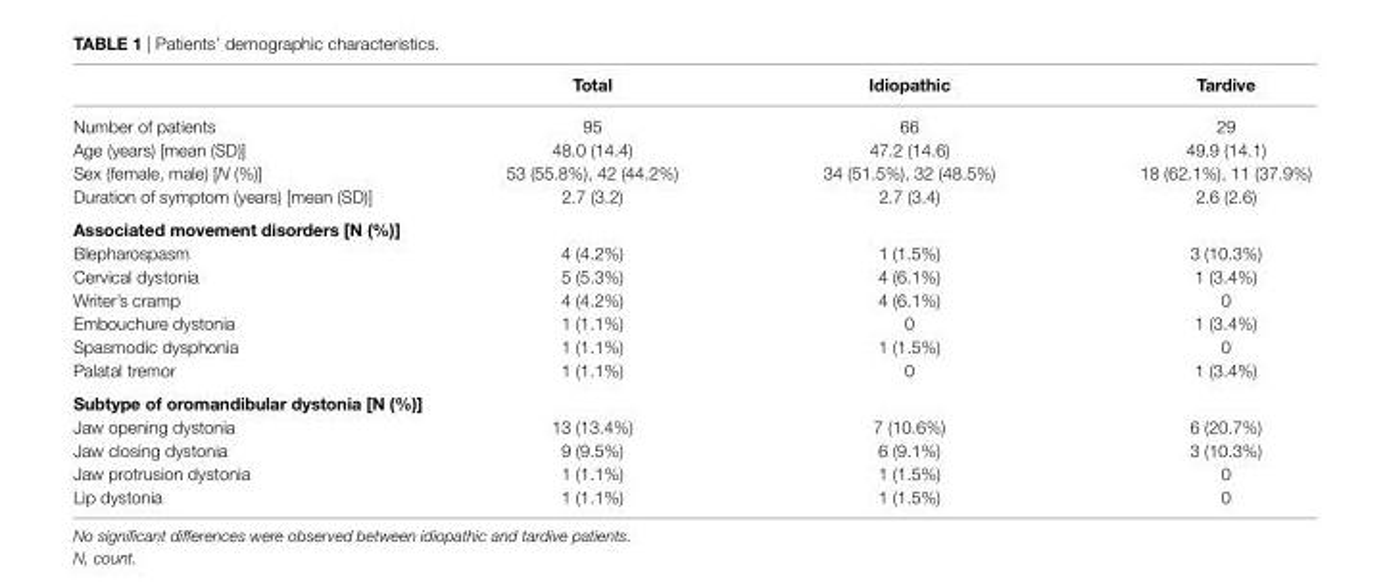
<table><thead><tr><td></td><td>Total</td><td>idiopathic</td><td>Tardive</td></tr></thead><tbody><tr><td>Number of patients</td><td>95</td><td>66</td><td>29</td></tr><tr><td>Age (years) [mean (SD)]</td><td>48.0 (14.4)</td><td>47.2 (14.6)</td><td>49.9 (14.1)</td></tr><tr><td>Sex (female, male) [N (%)]</td><td>53 (55.8%), 42 (44.2%)</td><td>34 (51.5%), 32 (48.5%)</td><td>18 (62.1%), 11 (37.9%)</td></tr><tr><td>Duration of symptom (years) [mean (SD)]</td><td>2.7 (3.2)</td><td>2.7 (3.4)</td><td>2.6 (2.6)</td></tr><tr><td colspan="4">associated movement disorders [n (%)]</td></tr><tr><td>Blepharospasm</td><td>4 (4.2%)</td><td>1 (1.5%)</td><td>3 (10.3%)</td></tr><tr><td>Cervical dystonia</td><td>5 (5.3%)</td><td>4 (6.1%)</td><td>1 (3.4%)</td></tr><tr><td>Writer’s cramp</td><td>4 (4.2%)</td><td>4 (6.1%)</td><td>0</td></tr><tr><td>Embouchure dystonia</td><td>1 (1.1%)</td><td>0</td><td>1 (3.4%)</td></tr><tr><td>Spasmodic dysphonia</td><td>1 (1.1%)</td><td>1 (1.5%)</td><td>0</td></tr><tr><td>Palatal tremor</td><td>1 (1.1%)</td><td>0</td><td>1 (3.4%)</td></tr><tr><td colspan="4">subtype of oromandibular dystonia [n (%)]</td></tr><tr><td>Jaw opening dystonia</td><td>13 (13.4%)</td><td>7 (10.6%)</td><td>6 (20.7%)</td></tr><tr><td>Jaw closing dystonia</td><td>9 (9.5%)</td><td>6 (9.1%)</td><td>3 (10.3%)</td></tr><tr><td>Jaw protrusion dystonia</td><td>1 (1.1%)</td><td>1 (1.5%)</td><td>0</td></tr><tr><td>Lip dystonia</td><td>1 (1.1%)</td><td>1 (1.5%)</td><td>0</td></tr></tbody></table>